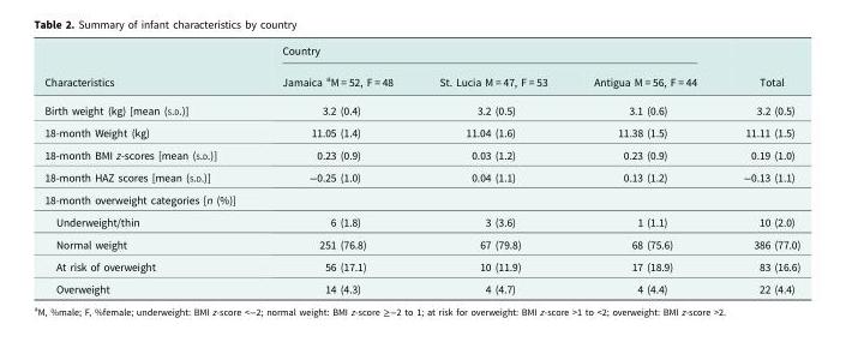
<table><thead><tr><td rowspan="2">Characteristics</td><td colspan="3">Country</td><td rowspan="2">Total</td></tr><tr><td>Jamaica <sup>a</sup>M = 52, F = 48</td><td>St. Lucia M = 47, F = 53</td><td>Antigua M = 56, F = 44</td></tr></thead><tbody><tr><td>Birth weight (kg) [mean (S.D.)]</td><td>3.2 (0.4)</td><td>3.2 (0.5)</td><td>3.1 (0.6)</td><td>3.2 (0.5)</td></tr><tr><td>18-month Weight (kg)</td><td>11.05 (1.4)</td><td>11.04 (1.6)</td><td>11.38 (1.5)</td><td>11.11 (1.5)</td></tr><tr><td>18-month BMI z-scores [mean (S.D.)]</td><td>0.23 (0.9)</td><td>0.03 (1.2)</td><td>0.23 (0.9)</td><td>0.19 (1.0)</td></tr><tr><td>18-month HAZ scores [mean (S.D.)]</td><td>−0.25 (1.0)</td><td>0.04 (1.1)</td><td>0.13 (1.2)</td><td>−0.13 (1.1)</td></tr><tr><td colspan="5">18-month overweight categories [n (%)]</td></tr><tr><td>Underweight/thin</td><td>6 (1.8)</td><td>3 (3.6)</td><td>1 (1.1)</td><td>10 (2.0)</td></tr><tr><td>Normal weight</td><td>251 (76.8)</td><td>67 (79.8)</td><td>68 (75.6)</td><td>386 (77.0)</td></tr><tr><td>At risk of overweight</td><td>56 (17.1)</td><td>10 (11.9)</td><td>17 (18.9)</td><td>83 (16.6)</td></tr><tr><td>Overweight</td><td>14 (4.3)</td><td>4 (4.7)</td><td>4 (4.4)</td><td>22 (4.4)</td></tr></tbody></table>